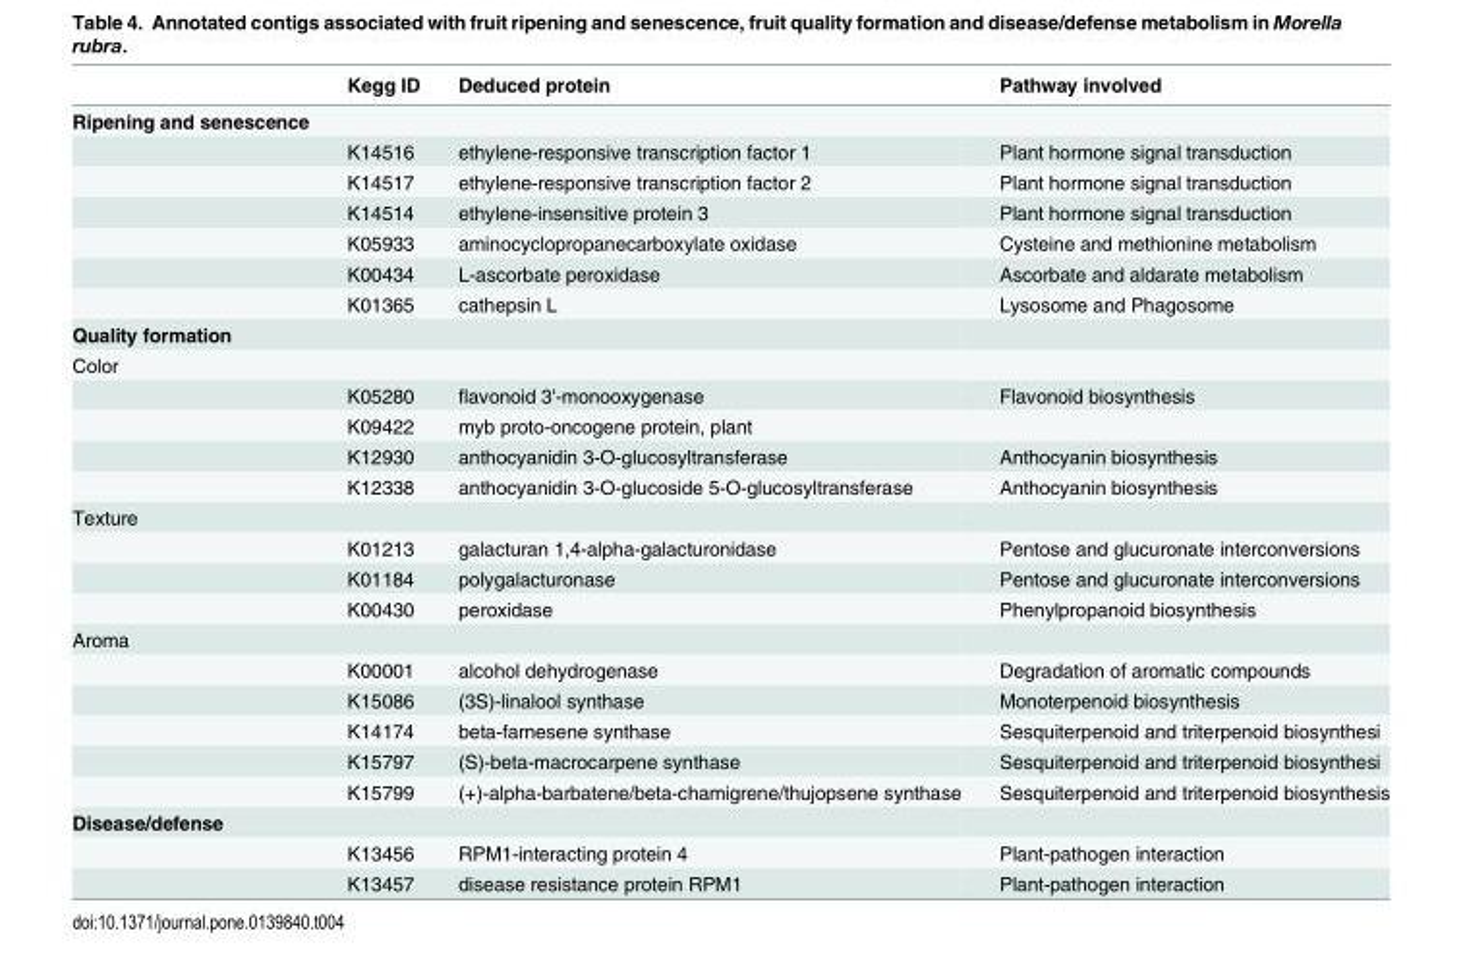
<table><thead><tr><td></td><td>Kegg ID</td><td>Deduced protein</td><td>Pathway involved</td></tr></thead><tbody><tr><td colspan="4">Ripening and senescence</td></tr><tr><td></td><td>K14516</td><td>ethylene-responsive transcription factor 1</td><td>Plant hormone signal transduction</td></tr><tr><td></td><td>K14517</td><td>ethylene-responsive transcription factor 2</td><td>Plant hormone signal transduction</td></tr><tr><td></td><td>K14514</td><td>ethylene-insensitive protein 3</td><td>Plant hormone signal transduction</td></tr><tr><td></td><td>K05933</td><td>aminocyclopropanecarboxylate oxidase</td><td>Cysteine and methionine metabolism</td></tr><tr><td></td><td>K00434</td><td>L-ascorbate peroxidase</td><td>Ascorbate and aldarate metabolism</td></tr><tr><td></td><td>K01365</td><td>cathepsin L</td><td>Lysosome and Phagosome</td></tr><tr><td colspan="4">Quality formation</td></tr><tr><td colspan="4">Color</td></tr><tr><td></td><td>K05280</td><td>flavonoid 3&#x27;-monooxygenase</td><td>Flavonoid biosynthesis</td></tr><tr><td></td><td>K09422</td><td>myb proto-oncogene protein, plant</td><td></td></tr><tr><td></td><td>K12930</td><td>anthocyanidin 3-O-glucosyltransferase</td><td>Anthocyanin biosynthesis</td></tr><tr><td></td><td>K12338</td><td>anthocyanidin 3-O-glucoside 5-O-glucosyltransferase</td><td>Anthocyanin biosynthesis</td></tr><tr><td colspan="4">Texture</td></tr><tr><td></td><td>K01213</td><td>galacturan 1,4-alpha-galacturonidase</td><td>Pentose and glucuronate interconversions</td></tr><tr><td></td><td>K01184</td><td>polygalacturonase</td><td>Pentose and glucuronate interconversions</td></tr><tr><td></td><td>K00430</td><td>peroxidase</td><td>Phenylpropanoid biosynthesis</td></tr><tr><td colspan="4">Aroma</td></tr><tr><td></td><td>K00001</td><td>alcohol dehydrogenase</td><td>Degradation of aromatic compounds</td></tr><tr><td></td><td>K15086</td><td>(3S)-linalool synthase</td><td>Monoterpenoid biosynthesis</td></tr><tr><td></td><td>K14174</td><td>beta-farnesene synthase</td><td>Sesquiterpenoid and triterpenoid biosynthesi</td></tr><tr><td></td><td>K15797</td><td>(S)-beta-macrocarpene synthase</td><td>Sesquiterpenoid and triterpenoid biosynthesi</td></tr><tr><td></td><td>K15799</td><td>(+)-alpha-barbatene/beta-chamigrene/thujopsene synthase</td><td>Sesquiterpenoid and triterpenoid biosynthesis</td></tr><tr><td colspan="4">Disease/defense</td></tr><tr><td></td><td>K13456</td><td>RPM1-interacting protein 4</td><td>Plant-pathogen interaction</td></tr><tr><td></td><td>K13457</td><td>disease resistance protein RPM1</td><td>Plant-pathogen interaction</td></tr></tbody></table>